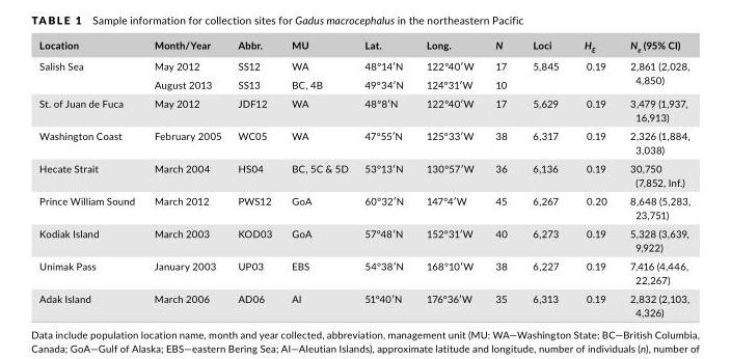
<table><thead><tr><td>Location</td><td>Month/Year</td><td>Abbr.</td><td>MU</td><td>Lat.</td><td>Long.</td><td>N</td><td>Loci</td><td>H<sub>E</sub></td><td>N<sub>e</sub> (95% CI)</td></tr></thead><tbody><tr><td rowspan="2">Salish Sea</td><td>May 2012</td><td>SS12</td><td>WA</td><td>48°14′N</td><td>122°40′W</td><td>17</td><td rowspan="2">5,845</td><td rowspan="2">0.19</td><td rowspan="2">2,861 (2,028, 4,850)</td></tr><tr><td>August 2013</td><td>SS13</td><td>BC, 4B</td><td>49°34′N</td><td>124°31′W</td><td>10</td></tr><tr><td>St. of Juan de Fuca</td><td>May 2012</td><td>JDF12</td><td>WA</td><td>48°8′N</td><td>122°40′W</td><td>17</td><td>5,629</td><td>0.19</td><td>3,479 (1,937, 16,913)</td></tr><tr><td>Washington Coast</td><td>February 2005</td><td>WC05</td><td>WA</td><td>47°55′N</td><td>125°33′W</td><td>38</td><td>6,317</td><td>0.19</td><td>2,326 (1,884, 3,038)</td></tr><tr><td>Hecate Strait</td><td>March 2004</td><td>HS04</td><td>BC, 5C &amp; 5D</td><td>53°13′N</td><td>130°57′W</td><td>36</td><td>6,136</td><td>0.19</td><td>30,750 (7,852, Inf.)</td></tr><tr><td>Prince William Sound</td><td>March 2012</td><td>PWS12</td><td>GoA</td><td>60°32′N</td><td>147°4′W</td><td>45</td><td>6,267</td><td>0.20</td><td>8,648 (5,283, 23,751)</td></tr><tr><td>Kodiak Island</td><td>March 2003</td><td>KOD03</td><td>GoA</td><td>57°48′N</td><td>152°31′W</td><td>40</td><td>6,273</td><td>0.19</td><td>5,328 (3,639, 9,922)</td></tr><tr><td>Unimak Pass</td><td>January 2003</td><td>UP03</td><td>EBS</td><td>54°38′N</td><td>168°10′W</td><td>38</td><td>6,227</td><td>0.19</td><td>7,416 (4,446, 22,267)</td></tr><tr><td>Adak Island</td><td>March 2006</td><td>AD06</td><td>AI</td><td>51°40′N</td><td>176°36′W</td><td>35</td><td>6,313</td><td>0.19</td><td>2,832 (2,103, 4,326)</td></tr></tbody></table>